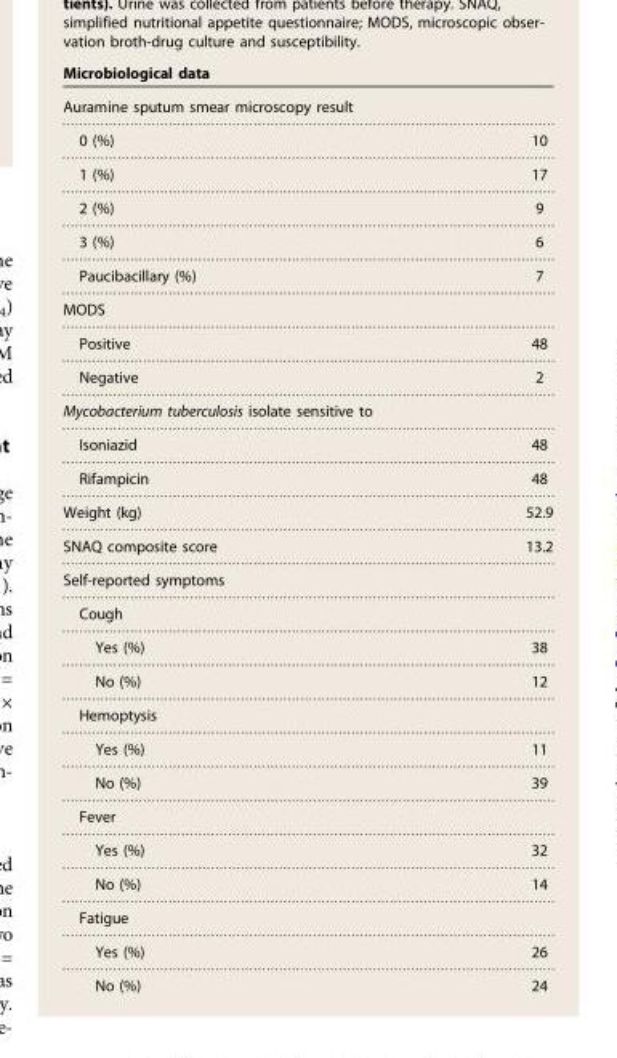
<table><thead><tr><td>Microbiological data</td><td></td></tr></thead><tbody><tr><td colspan="2">Auramine sputum smear microscopy result</td></tr><tr><td>0 (%)</td><td>10</td></tr><tr><td>1 (%)</td><td>17</td></tr><tr><td>2 (%)</td><td>9</td></tr><tr><td>3 (%)</td><td>6</td></tr><tr><td>Paucibacillary (%)</td><td>7</td></tr><tr><td colspan="2">MODS</td></tr><tr><td>Positive</td><td>48</td></tr><tr><td>Negative</td><td>2</td></tr><tr><td colspan="2">Mycobacterium tuberculosis isolate sensitive to</td></tr><tr><td>Isoniazid</td><td>48</td></tr><tr><td>Rifampicin</td><td>48</td></tr><tr><td>Weight (kg)</td><td>52.9</td></tr><tr><td>SNAQ composite score</td><td>13.2</td></tr><tr><td colspan="2">Self-reported symptoms</td></tr><tr><td colspan="2">Cough</td></tr><tr><td>Yes (%)</td><td>38</td></tr><tr><td>No (%)</td><td>12</td></tr><tr><td colspan="2">Hemoptysis</td></tr><tr><td>Yes (%)</td><td>11</td></tr><tr><td>No (%)</td><td>39</td></tr><tr><td colspan="2">Fever</td></tr><tr><td>Yes (%)</td><td>32</td></tr><tr><td>No (%)</td><td>14</td></tr><tr><td colspan="2">Fatigue</td></tr><tr><td>Yes (%)</td><td>26</td></tr><tr><td>No (%)</td><td>24</td></tr></tbody></table>